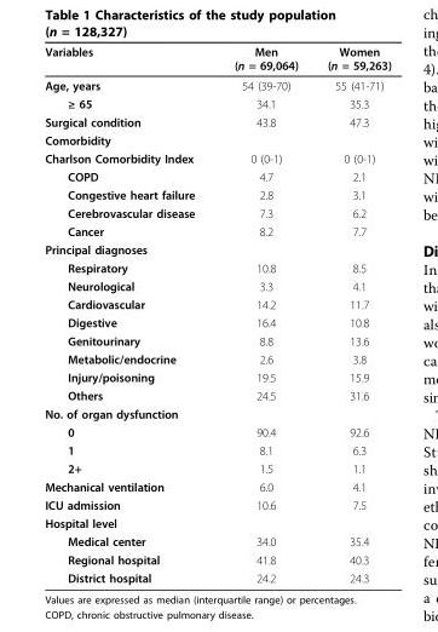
<table><thead><tr><td>Variables</td><td>Men (n = 69,064)</td><td>Women (n = 59,263)</td></tr></thead><tbody><tr><td>Age, years</td><td>54 (39-70)</td><td>55 (41-71)</td></tr><tr><td>≥ 65</td><td>34.1</td><td>35.3</td></tr><tr><td>Surgical condition</td><td>43.8</td><td>47.3</td></tr><tr><td colspan="3">Comorbidity</td></tr><tr><td>Charlson Comorbidity Index</td><td>0 (0-1)</td><td>0 (0-1)</td></tr><tr><td>COPD</td><td>4.7</td><td>2.1</td></tr><tr><td>Congestive heart failure</td><td>2.8</td><td>3.1</td></tr><tr><td>Cerebrovascular disease</td><td>7.3</td><td>6.2</td></tr><tr><td>Cancer</td><td>8.2</td><td>7.7</td></tr><tr><td colspan="3">Principal diagnoses</td></tr><tr><td>Respiratory</td><td>10.8</td><td>8.5</td></tr><tr><td>Neurological</td><td>3.3</td><td>4.1</td></tr><tr><td>Cardiovascular</td><td>14.2</td><td>11.7</td></tr><tr><td>Digestive</td><td>16.4</td><td>10.8</td></tr><tr><td>Genitourinary</td><td>8.8</td><td>13.6</td></tr><tr><td>Metabolic/endocrine</td><td>2.6</td><td>3.8</td></tr><tr><td>Injury/poisoning</td><td>19.5</td><td>15.9</td></tr><tr><td>Others</td><td>24.5</td><td>31.6</td></tr><tr><td colspan="3">No. of organ dysfunction</td></tr><tr><td>0</td><td>90.4</td><td>92.6</td></tr><tr><td>1</td><td>8.1</td><td>6.3</td></tr><tr><td>2+</td><td>1.5</td><td>1.1</td></tr><tr><td>Mechanical ventilation</td><td>6.0</td><td>4.1</td></tr><tr><td>ICU admission</td><td>10.6</td><td>7.5</td></tr><tr><td colspan="3">Hospital level</td></tr><tr><td>Medical center</td><td>34.0</td><td>35.4</td></tr><tr><td>Regional hospital</td><td>41.8</td><td>40.3</td></tr><tr><td>District hospital</td><td>24.2</td><td>24.3</td></tr></tbody></table>